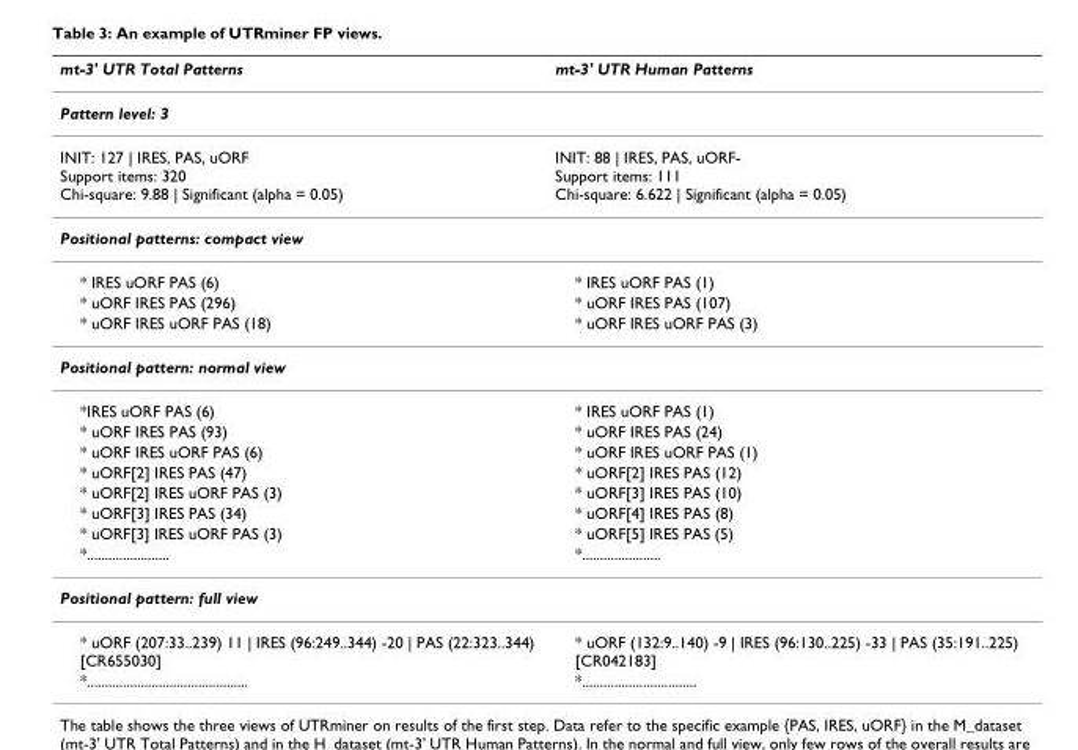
<table><thead><tr><td>mt-3&#x27; UTR Total Patterns</td><td>mt-3&#x27; UTR Human Patterns</td></tr></thead><tbody><tr><td colspan="2">Pattern level: 3</td></tr><tr><td>INIT: 127 | IRES, PAS, uORF Support items: 320 Chi-square: 9.88 | Significant (alpha = 0.05)</td><td>INIT: 88 | IRES, PAS, uORF- Support items: 111 Chi-square: 6.622 | Significant (alpha = 0.05)</td></tr><tr><td colspan="2">Positional patterns: compact view</td></tr><tr><td>* IRES uORF PAS (6)</td><td>* IRES uORF PAS (1)</td></tr><tr><td>* uORF IRES PAS (296)</td><td>* uORF IRES PAS (107)</td></tr><tr><td>* uORF IRES uORF PAS (18)</td><td>* uORF IRES uORF PAS (3)</td></tr><tr><td colspan="2">Positional pattern: normal view</td></tr><tr><td>*IRES uORF PAS (6)</td><td>* IRES uORF PAS (1)</td></tr><tr><td>* uORF IRES PAS (93)</td><td>* uORF IRES PAS (24)</td></tr><tr><td>* uORF IRES uORF PAS (6)</td><td>* uORF IRES uORF PAS (1)</td></tr><tr><td>* uORF[2] IRES PAS (47)</td><td>* uORF[2] IRES PAS (12)</td></tr><tr><td>* uORF[2] IRES uORF PAS (3)</td><td>* uORF[3] IRES PAS (10)</td></tr><tr><td>* uORF[3] IRES PAS (34)</td><td>* uORF[4] IRES PAS (8)</td></tr><tr><td>* uORF[3] IRES uORF PAS (3)</td><td>* uORF[5] IRES PAS (5)</td></tr><tr><td>*.......................</td><td>*......................</td></tr><tr><td colspan="2">Positional pattern: full view</td></tr><tr><td>* uORF (207:33..239) 11 | IRES (96:249..344) -20 | PAS (22:323..344) [CR655030]</td><td>* uORF (132:9..140) -9 | IRES (96:130..225) -33 | PAS (35:191..225) [CR042183]</td></tr><tr><td>*.............................................</td><td>*................................</td></tr></tbody></table>